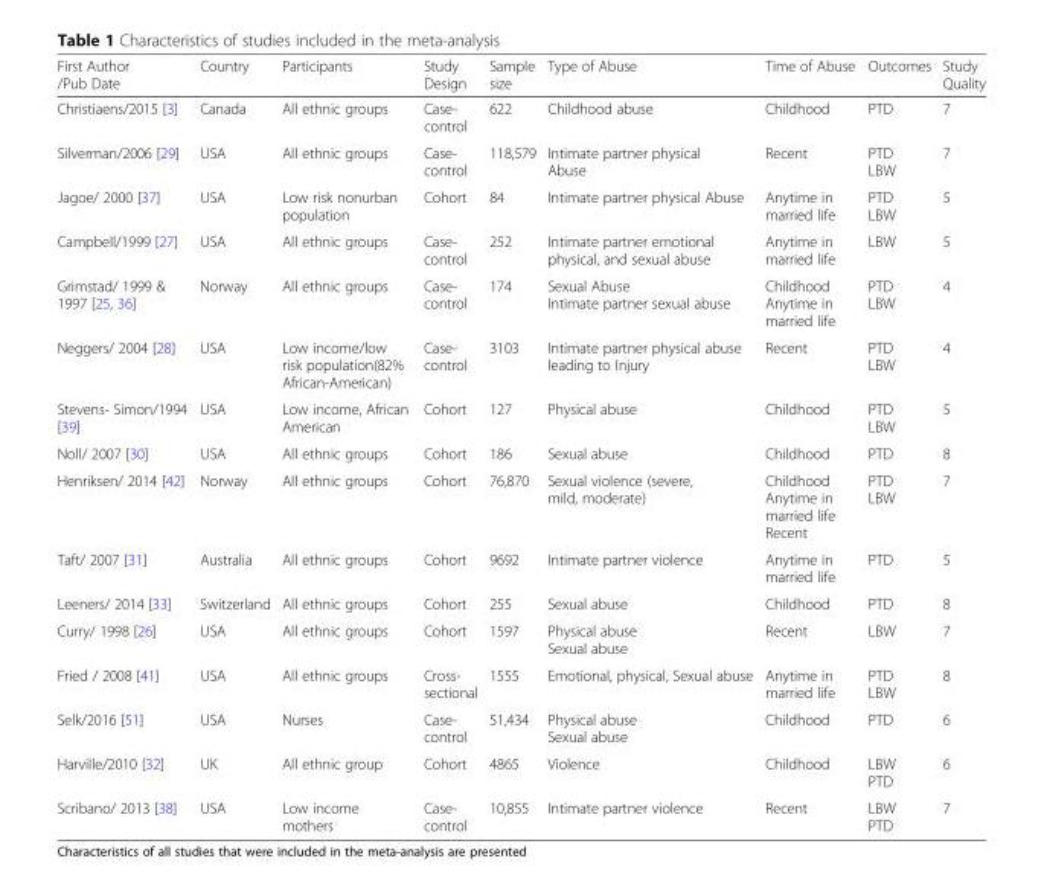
<table><thead><tr><td>First Author /Pub Date</td><td>Country</td><td>Participants</td><td>Study Design</td><td>Sample size</td><td>Type of Abuse</td><td>Time of Abuse</td><td>Outcomes</td><td>Study Quality</td></tr></thead><tbody><tr><td>Christiaens/2015 [3]</td><td>Canada</td><td>All ethnic groups</td><td>Case- control</td><td>622</td><td>Childhood abuse</td><td>Childhood</td><td>PTD</td><td>7</td></tr><tr><td>Silverman/2006 [29]</td><td>USA</td><td>All ethnic groups</td><td>Case- control</td><td>118,579</td><td>Intimate partner physical Abuse</td><td>Recent</td><td>PTD LBW</td><td>7</td></tr><tr><td>Jagoe/ 2000 [37]</td><td>USA</td><td>Low risk nonurban population</td><td>Cohort</td><td>84</td><td>Intimate partner physical Abuse</td><td>Anytime in married life</td><td>PTD LBW</td><td>5</td></tr><tr><td>Campbell/1999 [27]</td><td>USA</td><td>All ethnic groups</td><td>Case- control</td><td>252</td><td>Intimate partner emotional physical, and sexual abuse</td><td>Anytime in married life</td><td>LBW</td><td>5</td></tr><tr><td>Grimstad/ 1999 &amp; 1997 [25, 36]</td><td>Norway</td><td>All ethnic groups</td><td>Case- control</td><td>174</td><td>Sexual Abuse Intimate partner sexual abuse</td><td>Childhood Anytime in married life</td><td>PTD LBW</td><td>4</td></tr><tr><td>Neggers/ 2004 [28]</td><td>USA</td><td>Low income/low risk population(82% African-American)</td><td>Case- control</td><td>3103</td><td>Intimate partner physical abuse leading to Injury</td><td>Recent</td><td>PTD LBW</td><td>4</td></tr><tr><td>Stevens- Simon/1994 [39]</td><td>USA</td><td>Low income, African American</td><td>Cohort</td><td>127</td><td>Physical abuse</td><td>Childhood</td><td>PTD LBW</td><td>5</td></tr><tr><td>Noll/ 2007 [30]</td><td>USA</td><td>All ethnic groups</td><td>Cohort</td><td>186</td><td>Sexual abuse</td><td>Childhood</td><td>PTD</td><td>8</td></tr><tr><td>Henriksen/ 2014 [42]</td><td>Norway</td><td>All ethnic groups</td><td>Cohort</td><td>76,870</td><td>Sexual violence (severe, mild, moderate)</td><td>Childhood Anytime in married life Recent</td><td>PTD LBW</td><td>7</td></tr><tr><td>Taft/ 2007 [31]</td><td>Australia</td><td>All ethnic groups</td><td>Cohort</td><td>9692</td><td>Intimate partner violence</td><td>Anytime in married life</td><td>PTD</td><td>5</td></tr><tr><td>Leeners/ 2014 [33]</td><td>Switzerland</td><td>All ethnic groups</td><td>Cohort</td><td>255</td><td>Sexual abuse</td><td>Childhood</td><td>PTD</td><td>8</td></tr><tr><td>Curry/ 1998 [26]</td><td>USA</td><td>All ethnic groups</td><td>Cohort</td><td>1597</td><td>Physical abuse Sexual abuse</td><td>Recent</td><td>LBW</td><td>7</td></tr><tr><td>Fried / 2008 [41]</td><td>USA</td><td>All ethnic groups</td><td>Cross- sectional</td><td>1555</td><td>Emotional, physical, Sexual abuse</td><td>Anytime in married life</td><td>PTD LBW</td><td>8</td></tr><tr><td>Selk/2016 [51]</td><td>USA</td><td>Nurses</td><td>Case- control</td><td>51,434</td><td>Physical abuse Sexual abuse</td><td>Childhood</td><td>PTD</td><td>6</td></tr><tr><td>Harville/2010 [32]</td><td>UK</td><td>All ethnic group</td><td>Cohort</td><td>4865</td><td>Violence</td><td>Childhood</td><td>LBW PTD</td><td>6</td></tr><tr><td>Scribano/ 2013 [38]</td><td>USA</td><td>Low income mothers</td><td>Case- control</td><td>10,855</td><td>Intimate partner violence</td><td>Recent</td><td>LBW PTD</td><td>7</td></tr></tbody></table>